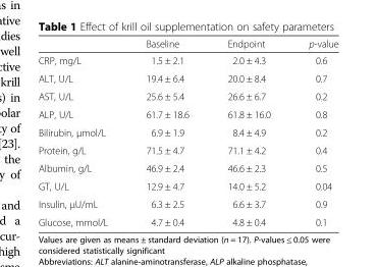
<table><thead><tr><td></td><td>Baseline</td><td>Endpoint</td><td>p-value</td></tr></thead><tbody><tr><td>CRP, mg/L</td><td>1.5 ± 2.1</td><td>2.0 ± 4.3</td><td>0.6</td></tr><tr><td>ALT, U/L</td><td>19.4 ± 6.4</td><td>20.0 ± 8.4</td><td>0.7</td></tr><tr><td>AST, U/L</td><td>25.6 ± 5.4</td><td>26.6 ± 6.7</td><td>0.2</td></tr><tr><td>ALP, U/L</td><td>61.7 ± 18.6</td><td>61.8 ± 16.0</td><td>0.8</td></tr><tr><td>Bilirubin, μmol/L</td><td>6.9 ± 1.9</td><td>8.4 ± 4.9</td><td>0.2</td></tr><tr><td>Protein, g/L</td><td>71.5 ± 4.7</td><td>71.1 ± 4.2</td><td>0.4</td></tr><tr><td>Albumin, g/L</td><td>46.9 ± 2.4</td><td>46.6 ± 2.3</td><td>0.5</td></tr><tr><td>GT, U/L</td><td>12.9 ± 4.7</td><td>14.0 ± 5.2</td><td>0.04</td></tr><tr><td>Insulin, μU/mL</td><td>6.3 ± 2.5</td><td>6.6 ± 3.7</td><td>0.9</td></tr><tr><td>Glucose, mmol/L</td><td>4.7 ± 0.4</td><td>4.8 ± 0.4</td><td>0.1</td></tr></tbody></table>